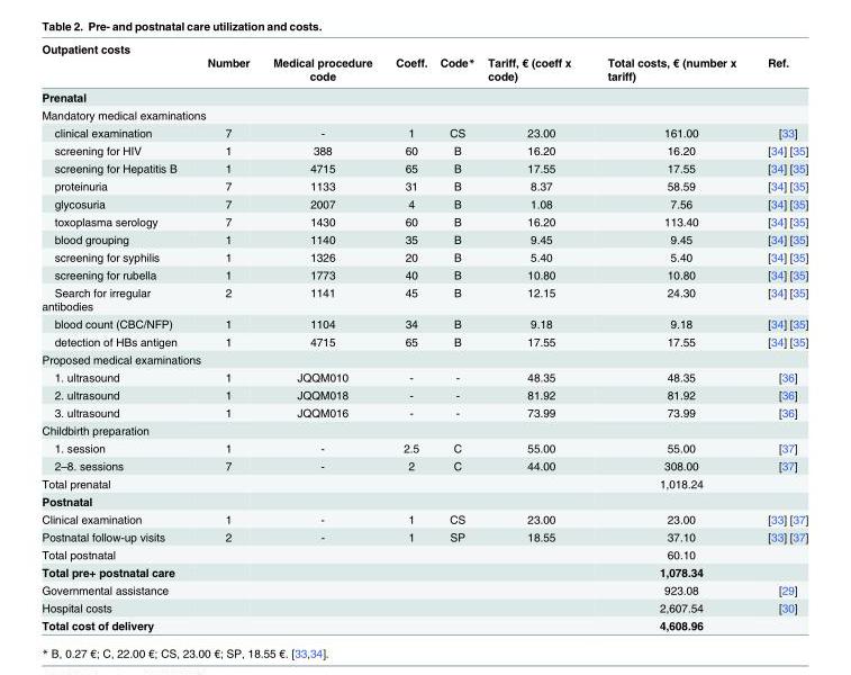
<table><thead><tr><td rowspan="2">Outpatient costs</td><td rowspan="2">Number</td><td rowspan="2">Medical procedure code</td><td rowspan="2">Coeff.</td><td rowspan="2">Code*</td><td rowspan="2">Tariff, € (coeff x code)</td><td rowspan="2">Total costs, € (number x tariff)</td><td rowspan="2">Ref.</td></tr><tr></tr></thead><tbody><tr><td colspan="8">Prenatal</td></tr><tr><td colspan="8">Mandatory medical examinations</td></tr><tr><td>clinical examination</td><td>7</td><td>-</td><td>1</td><td>CS</td><td>23.00</td><td>161.00</td><td>[33]</td></tr><tr><td>screening for HIV</td><td>1</td><td>388</td><td>60</td><td>B</td><td>16.20</td><td>16.20</td><td>[34] [35]</td></tr><tr><td>screening for Hepatitis B</td><td>1</td><td>4715</td><td>65</td><td>B</td><td>17.55</td><td>17.55</td><td>[34] [35]</td></tr><tr><td>proteinuria</td><td>7</td><td>1133</td><td>31</td><td>B</td><td>8.37</td><td>58.59</td><td>[34] [35]</td></tr><tr><td>glycosuria</td><td>7</td><td>2007</td><td>4</td><td>B</td><td>1.08</td><td>7.56</td><td>[34] [35]</td></tr><tr><td>toxoplasma serology</td><td>7</td><td>1430</td><td>60</td><td>B</td><td>16.20</td><td>113.40</td><td>[34] [35]</td></tr><tr><td>blood grouping</td><td>1</td><td>1140</td><td>35</td><td>B</td><td>9.45</td><td>9.45</td><td>[34] [35]</td></tr><tr><td>screening for syphilis</td><td>1</td><td>1326</td><td>20</td><td>B</td><td>5.40</td><td>5.40</td><td>[34] [35]</td></tr><tr><td>screening for rubella</td><td>1</td><td>1773</td><td>40</td><td>B</td><td>10.80</td><td>10.80</td><td>[34] [35]</td></tr><tr><td>Search for irregular antibodies</td><td>2</td><td>1141</td><td>45</td><td>B</td><td>12.15</td><td>24.30</td><td>[34] [35]</td></tr><tr><td>blood count (CBC/NFP)</td><td>1</td><td>1104</td><td>34</td><td>B</td><td>9.18</td><td>9.18</td><td>[34] [35]</td></tr><tr><td>detection of HBs antigen</td><td>1</td><td>4715</td><td>65</td><td>B</td><td>17.55</td><td>17.55</td><td>[34] [35]</td></tr><tr><td colspan="8">Proposed medical examinations</td></tr><tr><td>1. ultrasound</td><td>1</td><td>JQQM010</td><td>-</td><td>-</td><td>48.35</td><td>48.35</td><td>[36]</td></tr><tr><td>2. ultrasound</td><td>1</td><td>JQQM018</td><td>-</td><td>-</td><td>81.92</td><td>81.92</td><td>[36]</td></tr><tr><td>3. ultrasound</td><td>1</td><td>JQQM016</td><td>-</td><td>-</td><td>73.99</td><td>73.99</td><td>[36]</td></tr><tr><td colspan="8">Childbirth preparation</td></tr><tr><td>1. session</td><td>1</td><td>-</td><td>2.5</td><td>C</td><td>55.00</td><td>55.00</td><td>[37]</td></tr><tr><td>2–8. sessions</td><td>7</td><td>-</td><td>2</td><td>C</td><td>44.00</td><td>308.00</td><td>[37]</td></tr><tr><td>Total prenatal</td><td></td><td></td><td></td><td></td><td></td><td>1,018.24</td><td></td></tr><tr><td colspan="8">Postnatal</td></tr><tr><td>Clinical examination</td><td>1</td><td>-</td><td>1</td><td>CS</td><td>23.00</td><td>23.00</td><td>[33] [37]</td></tr><tr><td>Postnatal follow-up visits</td><td>2</td><td>-</td><td>1</td><td>SP</td><td>18.55</td><td>37.10</td><td>[33] [37]</td></tr><tr><td>Total postnatal</td><td></td><td></td><td></td><td></td><td></td><td>60.10</td><td></td></tr><tr><td>Total pre+ postnatal care</td><td></td><td></td><td></td><td></td><td></td><td>1,078.34</td><td></td></tr><tr><td>Governmental assistance</td><td></td><td></td><td></td><td></td><td></td><td>923.08</td><td>[29]</td></tr><tr><td>Hospital costs</td><td></td><td></td><td></td><td></td><td></td><td>2,607.54</td><td>[30]</td></tr><tr><td>Total cost of delivery</td><td></td><td></td><td></td><td></td><td></td><td>4,608.96</td><td></td></tr></tbody></table>